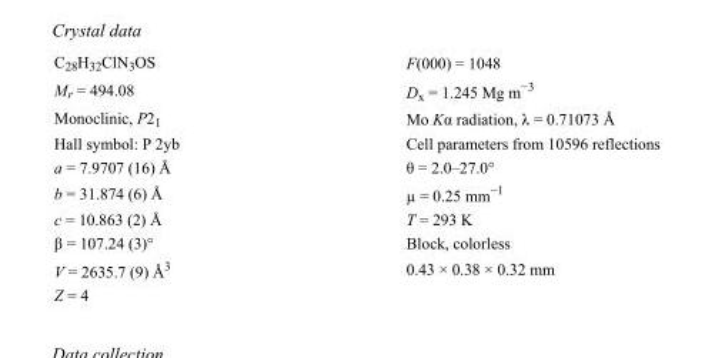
<table><tbody><tr><td>C<sub>28</sub>H<sub>32</sub>ClN<sub>3</sub>OS</td><td>F(000) = 1048</td></tr><tr><td>M<sub>r</sub> = 494.08</td><td>D<sub>x</sub> = 1.245 Mg m<sup>−3</sup></td></tr><tr><td>Monoclinic, P2<sub>1</sub></td><td>Mo Kα radiation, λ = 0.71073 Å</td></tr><tr><td>Hall symbol: P 2yb</td><td>Cell parameters from 10596 reflections</td></tr><tr><td>a = 7.9707 (16) Å</td><td>θ = 2.0–27.0°</td></tr><tr><td>b = 31.874 (6) Å</td><td>µ = 0.25 mm<sup>−1</sup></td></tr><tr><td>c = 10.863 (2) Å</td><td>T = 293 K</td></tr><tr><td>β = 107.24 (3)°</td><td>Block, colorless</td></tr><tr><td>V = 2635.7 (9) Å<sup>3</sup></td><td>0.43 × 0.38 × 0.32 mm</td></tr><tr><td>Z = 4</td><td></td></tr></tbody></table>